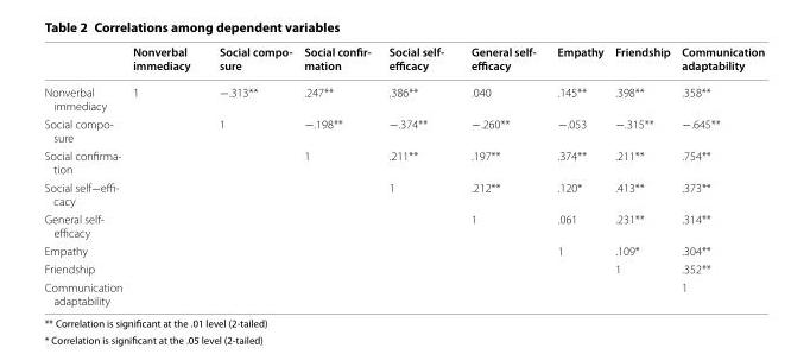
<table><thead><tr><td></td><td>Nonverbal immediacy</td><td>Social compo‑ sure</td><td>Social confir‑ mation</td><td>Social self‑ efficacy</td><td>General self‑ efficacy</td><td>Empathy</td><td>Friendship</td><td>Communication adaptability</td></tr></thead><tbody><tr><td>Nonverbal immediacy</td><td>1</td><td>−.313**</td><td>.247**</td><td>.386**</td><td>.040</td><td>.145**</td><td>.398**</td><td>.358**</td></tr><tr><td>Social compo- sure</td><td></td><td>1</td><td>−.198**</td><td>−.374**</td><td>−.260**</td><td>−.053</td><td>−.315**</td><td>−.645**</td></tr><tr><td>Social confirma- tion</td><td></td><td></td><td>1</td><td>.211**</td><td>.197**</td><td>.374**</td><td>.211**</td><td>.754**</td></tr><tr><td>Social self−effi- cacy</td><td></td><td></td><td></td><td>1</td><td>.212**</td><td>.120*</td><td>.413**</td><td>.373**</td></tr><tr><td>General self- efficacy</td><td></td><td></td><td></td><td></td><td>1</td><td>.061</td><td>.231**</td><td>.314**</td></tr><tr><td>Empathy</td><td></td><td></td><td></td><td></td><td></td><td>1</td><td>.109*</td><td>.304**</td></tr><tr><td>Friendship</td><td></td><td></td><td></td><td></td><td></td><td></td><td>1</td><td>.352**</td></tr><tr><td>Communication adaptability</td><td></td><td></td><td></td><td></td><td></td><td></td><td></td><td>1</td></tr></tbody></table>